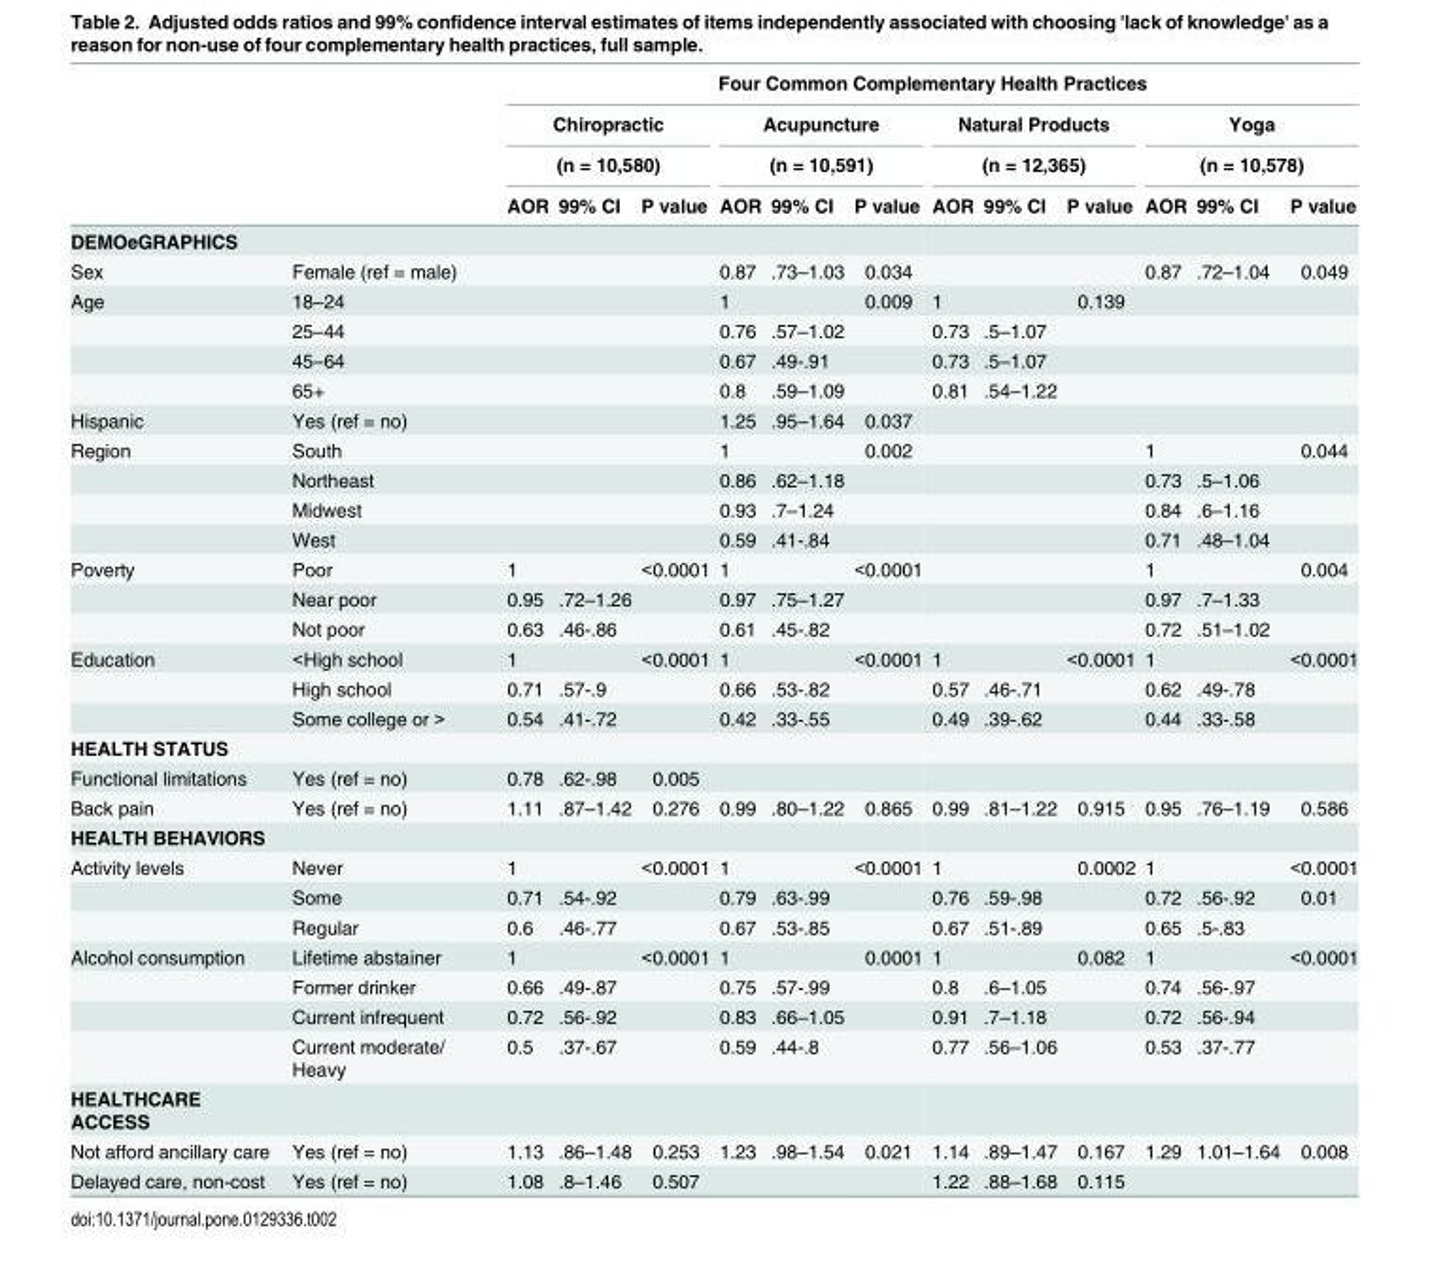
<table><thead><tr><td rowspan="4"></td><td rowspan="4"></td><td colspan="12">Four Common Complementary Health Practices</td></tr><tr><td rowspan="2" colspan="3">Chiropractic (n = 10,580)</td><td rowspan="2" colspan="3">Acupuncture (n = 10,591)</td><td rowspan="2" colspan="3">Natural Products (n = 12,365)</td><td rowspan="2" colspan="3">Yoga (n = 10,578)</td></tr><tr></tr><tr><td>AOR</td><td>99% CI</td><td>P value</td><td>AOR</td><td>99% CI</td><td>P value</td><td>AOR</td><td>99% CI</td><td>P value</td><td>AOR</td><td>99% CI</td><td>P value</td></tr></thead><tbody><tr><td colspan="14">DEMOeGRAPHICS</td></tr><tr><td>Sex</td><td>Female (ref = male)</td><td></td><td></td><td></td><td>0.87</td><td>.73–1.03</td><td>0.034</td><td></td><td></td><td></td><td>0.87</td><td>.72–1.04</td><td>0.049</td></tr><tr><td rowspan="4">Age</td><td>18–24</td><td></td><td></td><td></td><td>1</td><td></td><td>0.009</td><td>1</td><td></td><td>0.139</td><td></td><td></td><td></td></tr><tr><td>25–44</td><td></td><td></td><td></td><td>0.76</td><td>.57–1.02</td><td></td><td>0.73</td><td>.5–1.07</td><td></td><td></td><td></td><td></td></tr><tr><td>45–64</td><td></td><td></td><td></td><td>0.67</td><td>.49-.91</td><td></td><td>0.73</td><td>.5–1.07</td><td></td><td></td><td></td><td></td></tr><tr><td>65+</td><td></td><td></td><td></td><td>0.8</td><td>.59–1.09</td><td></td><td>0.81</td><td>.54–1.22</td><td></td><td></td><td></td><td></td></tr><tr><td>Hispanic</td><td>Yes (ref = no)</td><td></td><td></td><td></td><td>1.25</td><td>.95–1.64</td><td>0.037</td><td></td><td></td><td></td><td></td><td></td><td></td></tr><tr><td rowspan="4">Region</td><td>South</td><td></td><td></td><td></td><td>1</td><td></td><td>0.002</td><td></td><td></td><td></td><td>1</td><td></td><td>0.044</td></tr><tr><td>Northeast</td><td></td><td></td><td></td><td>0.86</td><td>.62–1.18</td><td></td><td></td><td></td><td></td><td>0.73</td><td>.5–1.06</td><td></td></tr><tr><td>Midwest</td><td></td><td></td><td></td><td>0.93</td><td>.7–1.24</td><td></td><td></td><td></td><td></td><td>0.84</td><td>.6–1.16</td><td></td></tr><tr><td>West</td><td></td><td></td><td></td><td>0.59</td><td>.41-.84</td><td></td><td></td><td></td><td></td><td>0.71</td><td>.48–1.04</td><td></td></tr><tr><td rowspan="3">Poverty</td><td>Poor</td><td>1</td><td></td><td>&lt;0.0001</td><td>1</td><td></td><td>&lt;0.0001</td><td></td><td></td><td></td><td>1</td><td></td><td>0.004</td></tr><tr><td>Near poor</td><td>0.95</td><td>.72–1.26</td><td></td><td>0.97</td><td>.75–1.27</td><td></td><td></td><td></td><td></td><td>0.97</td><td>.7–1.33</td><td></td></tr><tr><td>Not poor</td><td>0.63</td><td>.46-.86</td><td></td><td>0.61</td><td>.45-.82</td><td></td><td></td><td></td><td></td><td>0.72</td><td>.51–1.02</td><td></td></tr><tr><td rowspan="3">Education</td><td>&lt;High school</td><td>1</td><td></td><td>&lt;0.0001</td><td>1</td><td></td><td>&lt;0.0001</td><td>1</td><td></td><td>&lt;0.0001</td><td>1</td><td></td><td>&lt;0.0001</td></tr><tr><td>High school</td><td>0.71</td><td>.57-.9</td><td></td><td>0.66</td><td>.53-.82</td><td></td><td>0.57</td><td>.46-.71</td><td></td><td>0.62</td><td>.49-.78</td><td></td></tr><tr><td>Some college or &gt;</td><td>0.54</td><td>.41-.72</td><td></td><td>0.42</td><td>.33-.55</td><td></td><td>0.49</td><td>.39-.62</td><td></td><td>0.44</td><td>.33-.58</td><td></td></tr><tr><td colspan="14">HEALTH STATUS</td></tr><tr><td>Functional limitations</td><td>Yes (ref = no)</td><td>0.78</td><td>.62-.98</td><td>0.005</td><td></td><td></td><td></td><td></td><td></td><td></td><td></td><td></td><td></td></tr><tr><td>Back pain</td><td>Yes (ref = no)</td><td>1.11</td><td>.87–1.42</td><td>0.276</td><td>0.99</td><td>.80–1.22</td><td>0.865</td><td>0.99</td><td>.81–1.22</td><td>0.915</td><td>0.95</td><td>.76–1.19</td><td>0.586</td></tr><tr><td colspan="14">HEALTH BEHAVIORS</td></tr><tr><td rowspan="3">Activity levels</td><td>Never</td><td>1</td><td></td><td>&lt;0.0001</td><td>1</td><td></td><td>&lt;0.0001</td><td>1</td><td></td><td>0.0002</td><td>1</td><td></td><td>&lt;0.0001</td></tr><tr><td>Some</td><td>0.71</td><td>.54-.92</td><td></td><td>0.79</td><td>.63-.99</td><td></td><td>0.76</td><td>.59-.98</td><td></td><td>0.72</td><td>.56-.92</td><td>0.01</td></tr><tr><td>Regular</td><td>0.6</td><td>.46-.77</td><td></td><td>0.67</td><td>.53-.85</td><td></td><td>0.67</td><td>.51-.89</td><td></td><td>0.65</td><td>.5-.83</td><td></td></tr><tr><td rowspan="4">Alcohol consumption</td><td>Lifetime abstainer</td><td>1</td><td></td><td>&lt;0.0001</td><td>1</td><td></td><td>0.0001</td><td>1</td><td></td><td>0.082</td><td>1</td><td></td><td>&lt;0.0001</td></tr><tr><td>Former drinker</td><td>0.66</td><td>.49-.87</td><td></td><td>0.75</td><td>.57-.99</td><td></td><td>0.8</td><td>.6–1.05</td><td></td><td>0.74</td><td>.56-.97</td><td></td></tr><tr><td>Current infrequent</td><td>0.72</td><td>.56-.92</td><td></td><td>0.83</td><td>.66–1.05</td><td></td><td>0.91</td><td>.7–1.18</td><td></td><td>0.72</td><td>.56-.94</td><td></td></tr><tr><td>Current moderate/ Heavy</td><td>0.5</td><td>.37-.67</td><td></td><td>0.59</td><td>.44-.8</td><td></td><td>0.77</td><td>.56–1.06</td><td></td><td>0.53</td><td>.37-.77</td><td></td></tr><tr><td colspan="14">HEALTHCARE ACCESS</td></tr><tr><td>Not afford ancillary care</td><td>Yes (ref = no)</td><td>1.13</td><td>.86–1.48</td><td>0.253</td><td>1.23</td><td>.98–1.54</td><td>0.021</td><td>1.14</td><td>.89–1.47</td><td>0.167</td><td>1.29</td><td>1.01–1.64</td><td>0.008</td></tr><tr><td>Delayed care, non-cost</td><td>Yes (ref = no)</td><td>1.08</td><td>.8–1.46</td><td>0.507</td><td></td><td></td><td></td><td>1.22</td><td>.88–1.68</td><td>0.115</td><td></td><td></td><td></td></tr></tbody></table>